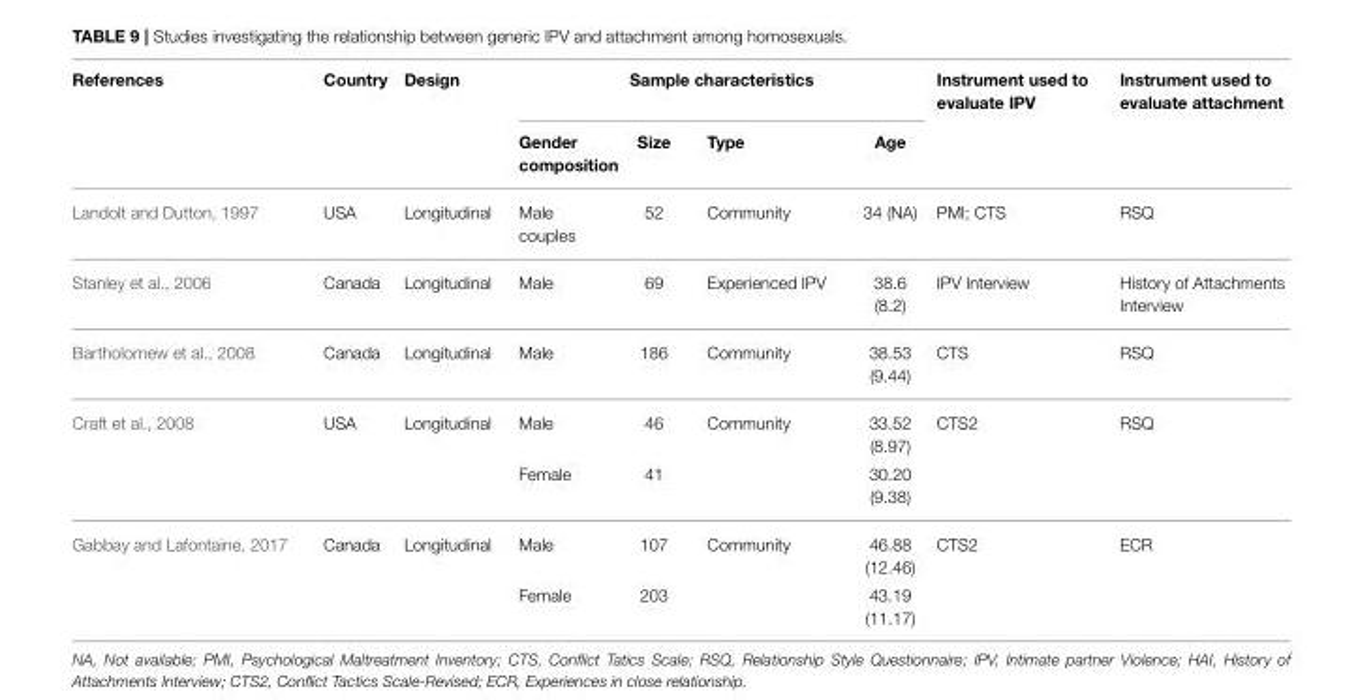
<table><thead><tr><td rowspan="2">References</td><td rowspan="2">Country</td><td rowspan="2">Design</td><td colspan="4">Sample characteristics</td><td rowspan="2">Instrument used to evaluate IPV</td><td rowspan="2">Instrument used to evaluate attachment</td></tr><tr><td>Gender composition</td><td>Size</td><td>Type</td><td>Age</td></tr></thead><tbody><tr><td>Landolt and Dutton, 1997</td><td>USA</td><td>Longitudinal</td><td>Male couples</td><td>52</td><td>Community</td><td>34 (NA)</td><td>PMI; CTS</td><td>RSQ</td></tr><tr><td>Stanley et al., 2006</td><td>Canada</td><td>Longitudinal</td><td>Male</td><td>69</td><td>Experienced IPV</td><td>38.6 (8.2)</td><td>IPV Interview</td><td>History of Attachments Interview</td></tr><tr><td>Bartholomew et al., 2008</td><td>Canada</td><td>Longitudinal</td><td>Male</td><td>186</td><td>Community</td><td>38.53 (9.44)</td><td>CTS</td><td>RSQ</td></tr><tr><td rowspan="2">Craft et al., 2008</td><td>USA</td><td>Longitudinal</td><td>Male</td><td>46</td><td>Community</td><td>33.52 (8.97)</td><td>CTS2</td><td>RSQ</td></tr><tr><td></td><td></td><td>Female</td><td>41</td><td></td><td>30.20 (9.38)</td><td></td><td></td></tr><tr><td rowspan="2">Gabbay and Lafontaine, 2017</td><td>Canada</td><td>Longitudinal</td><td>Male</td><td>107</td><td>Community</td><td>46.88 (12.46)</td><td>CTS2</td><td>ECR</td></tr><tr><td></td><td></td><td>Female</td><td>203</td><td></td><td>43.19 (11.17)</td><td></td><td></td></tr></tbody></table>